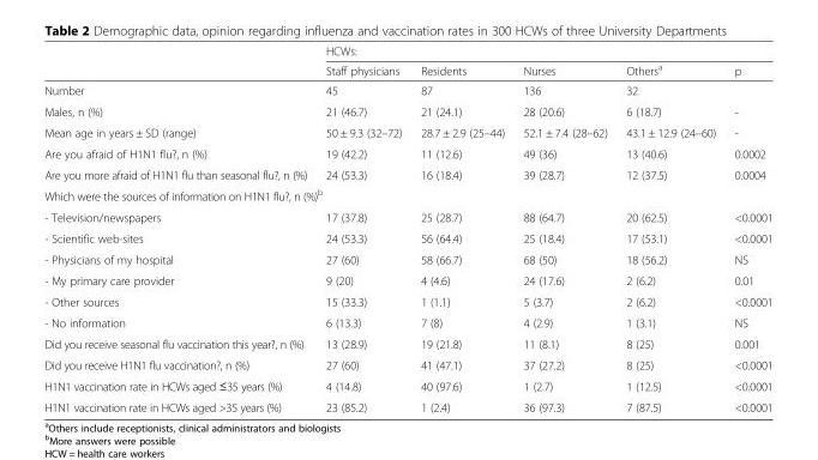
<table><thead><tr><td rowspan="2"></td><td colspan="5">HCWs:</td></tr><tr><td>Staff physicians</td><td>Residents</td><td>Nurses</td><td>Others<sup>a</sup></td><td>p</td></tr></thead><tbody><tr><td>Number</td><td>45</td><td>87</td><td>136</td><td>32</td><td></td></tr><tr><td>Males, n (%)</td><td>21 (46.7)</td><td>21 (24.1)</td><td>28 (20.6)</td><td>6 (18.7)</td><td>-</td></tr><tr><td>Mean age in years ± SD (range)</td><td>50 ± 9.3 (32–72)</td><td>28.7 ± 2.9 (25–44)</td><td>52.1 ± 7.4 (28–62)</td><td>43.1 ± 12.9 (24–60)</td><td>-</td></tr><tr><td>Are you afraid of H1N1 flu?, n (%)</td><td>19 (42.2)</td><td>11 (12.6)</td><td>49 (36)</td><td>13 (40.6)</td><td>0.0002</td></tr><tr><td>Are you more afraid of H1N1 flu than seasonal flu?, n (%)</td><td>24 (53.3)</td><td>16 (18.4)</td><td>39 (28.7)</td><td>12 (37.5)</td><td>0.0004</td></tr><tr><td colspan="6">Which were the sources of information on H1N1 flu?, n (%)<sup>b</sup></td></tr><tr><td>- Television/newspapers</td><td>17 (37.8)</td><td>25 (28.7)</td><td>88 (64.7)</td><td>20 (62.5)</td><td>&lt;0.0001</td></tr><tr><td>- Scientific web-sites</td><td>24 (53.3)</td><td>56 (64.4)</td><td>25 (18.4)</td><td>17 (53.1)</td><td>&lt;0.0001</td></tr><tr><td>- Physicians of my hospital</td><td>27 (60)</td><td>58 (66.7)</td><td>68 (50)</td><td>18 (56.2)</td><td>NS</td></tr><tr><td>- My primary care provider</td><td>9 (20)</td><td>4 (4.6)</td><td>24 (17.6)</td><td>2 (6.2)</td><td>0.01</td></tr><tr><td>- Other sources</td><td>15 (33.3)</td><td>1 (1.1)</td><td>5 (3.7)</td><td>2 (6.2)</td><td>&lt;0.0001</td></tr><tr><td>- No information</td><td>6 (13.3)</td><td>7 (8)</td><td>4 (2.9)</td><td>1 (3.1)</td><td>NS</td></tr><tr><td>Did you receive seasonal flu vaccination this year?, n (%)</td><td>13 (28.9)</td><td>19 (21.8)</td><td>11 (8.1)</td><td>8 (25)</td><td>0.001</td></tr><tr><td>Did you receive H1N1 flu vaccination?, n (%)</td><td>27 (60)</td><td>41 (47.1)</td><td>37 (27.2)</td><td>8 (25)</td><td>&lt;0.0001</td></tr><tr><td>H1N1 vaccination rate in HCWs aged ≤35 years (%)</td><td>4 (14.8)</td><td>40 (97.6)</td><td>1 (2.7)</td><td>1 (12.5)</td><td>&lt;0.0001</td></tr><tr><td>H1N1 vaccination rate in HCWs aged &gt;35 years (%)</td><td>23 (85.2)</td><td>1 (2.4)</td><td>36 (97.3)</td><td>7 (87.5)</td><td>&lt;0.0001</td></tr></tbody></table>